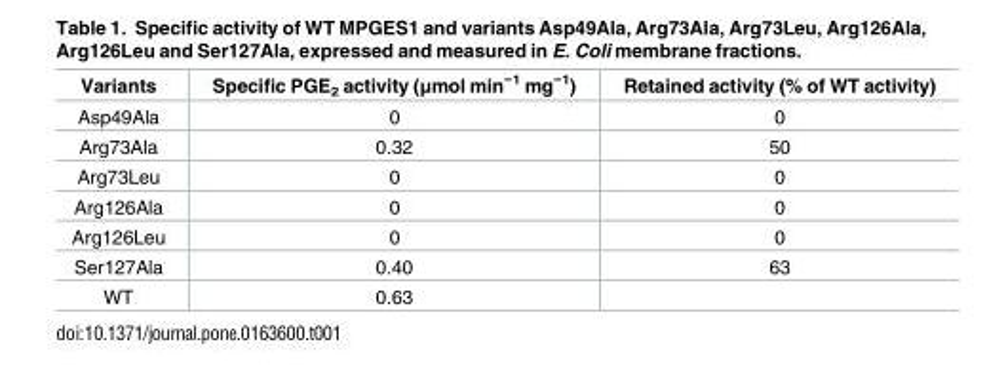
<table><thead><tr><td>Variants</td><td>Specific PGE<sub>2</sub> activity (μmol min<sup>−1</sup> mg<sup>−1</sup>)</td><td>Retained activity (% of WT activity)</td></tr></thead><tbody><tr><td>Asp49Ala</td><td>0</td><td>0</td></tr><tr><td>Arg73Ala</td><td>0.32</td><td>50</td></tr><tr><td>Arg73Leu</td><td>0</td><td>0</td></tr><tr><td>Arg126Ala</td><td>0</td><td>0</td></tr><tr><td>Arg126Leu</td><td>0</td><td>0</td></tr><tr><td>Ser127Ala</td><td>0.40</td><td>63</td></tr><tr><td>WT</td><td>0.63</td><td></td></tr></tbody></table>